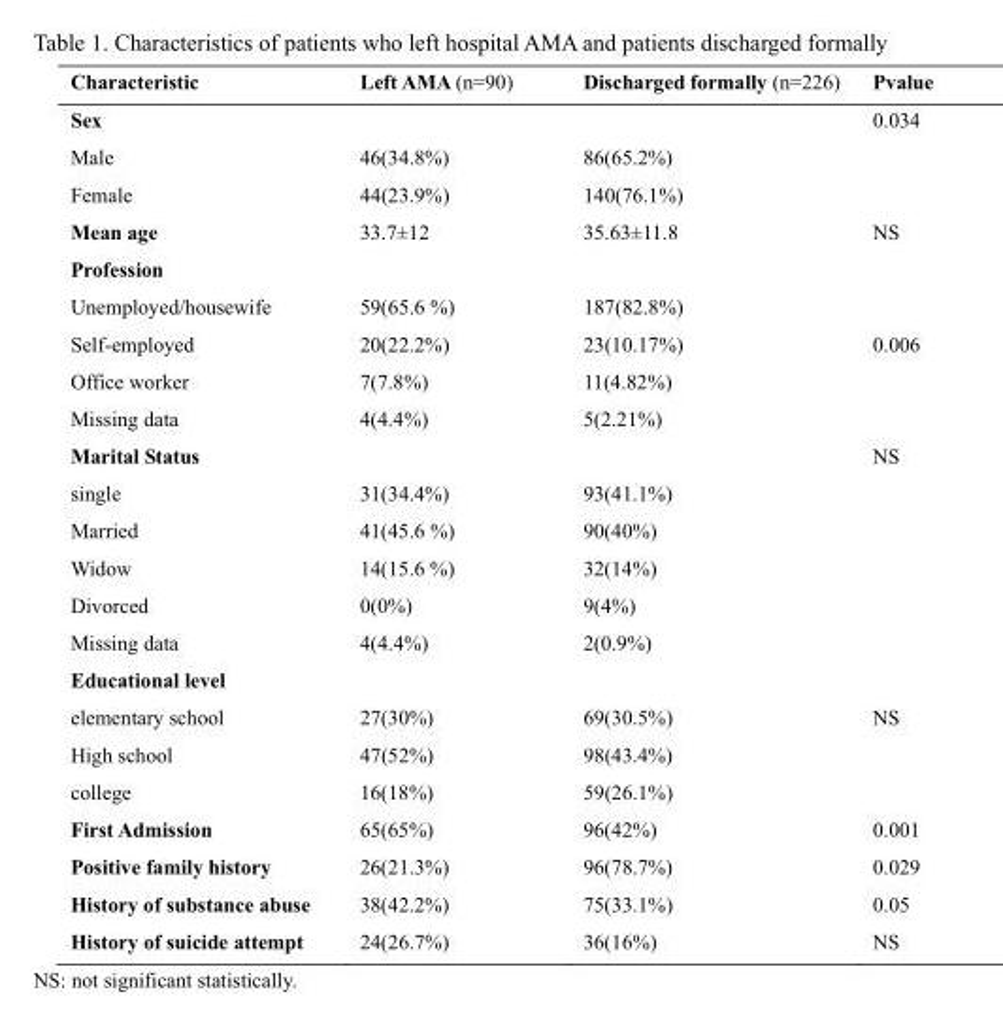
<table><thead><tr><td>Characteristic</td><td>Left AMA (n=90)</td><td>Discharged formally (n=226)</td><td>Pvalue</td></tr></thead><tbody><tr><td>Sex</td><td></td><td></td><td>0.034</td></tr><tr><td>Male</td><td>46(34.8%)</td><td>86(65.2%)</td><td></td></tr><tr><td>Female</td><td>44(23.9%)</td><td>140(76.1%)</td><td></td></tr><tr><td>Mean age</td><td>33.7±12</td><td>35.63±11.8</td><td>NS</td></tr><tr><td colspan="4">Profession</td></tr><tr><td>Unemployed/housewife</td><td>59(65.6 %)</td><td>187(82.8%)</td><td></td></tr><tr><td>Self-employed</td><td>20(22.2%)</td><td>23(10.17%)</td><td>0.006</td></tr><tr><td>Office worker</td><td>7(7.8%)</td><td>11(4.82%)</td><td></td></tr><tr><td>Missing data</td><td>4(4.4%)</td><td>5(2.21%)</td><td></td></tr><tr><td>Marital Status</td><td></td><td></td><td>NS</td></tr><tr><td>single</td><td>31(34.4%)</td><td>93(41.1%)</td><td></td></tr><tr><td>Married</td><td>41(45.6 %)</td><td>90(40%)</td><td></td></tr><tr><td>Widow</td><td>14(15.6 %)</td><td>32(14%)</td><td></td></tr><tr><td>Divorced</td><td>0(0%)</td><td>9(4%)</td><td></td></tr><tr><td>Missing data</td><td>4(4.4%)</td><td>2(0.9%)</td><td></td></tr><tr><td colspan="4">Educational level</td></tr><tr><td>elementary school</td><td>27(30%)</td><td>69(30.5%)</td><td>NS</td></tr><tr><td>High school</td><td>47(52%)</td><td>98(43.4%)</td><td></td></tr><tr><td>college</td><td>16(18%)</td><td>59(26.1%)</td><td></td></tr><tr><td>First Admission</td><td>65(65%)</td><td>96(42%)</td><td>0.001</td></tr><tr><td>Positive family history</td><td>26(21.3%)</td><td>96(78.7%)</td><td>0.029</td></tr><tr><td>History of substance abuse</td><td>38(42.2%)</td><td>75(33.1%)</td><td>0.05</td></tr><tr><td>History of suicide attempt</td><td>24(26.7%)</td><td>36(16%)</td><td>NS</td></tr></tbody></table>